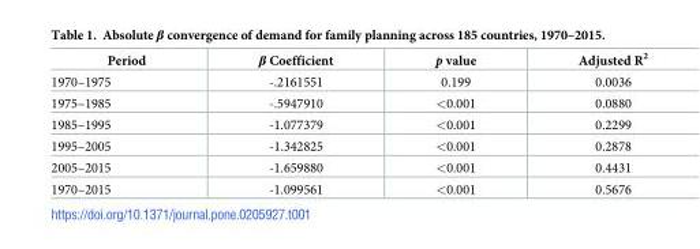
<table><thead><tr><td>Period</td><td>β Coefficient</td><td>p value</td><td>Adjusted R<sup>2</sup></td></tr></thead><tbody><tr><td>1970–1975</td><td>-.2161551</td><td>0.199</td><td>0.0036</td></tr><tr><td>1975–1985</td><td>-.5947910</td><td>&lt;0.001</td><td>0.0880</td></tr><tr><td>1985–1995</td><td>-1.077379</td><td>&lt;0.001</td><td>0.2299</td></tr><tr><td>1995–2005</td><td>-1.342825</td><td>&lt;0.001</td><td>0.2878</td></tr><tr><td>2005–2015</td><td>-1.659880</td><td>&lt;0.001</td><td>0.4431</td></tr><tr><td>1970–2015</td><td>-1.099561</td><td>&lt;0.001</td><td>0.5676</td></tr></tbody></table>